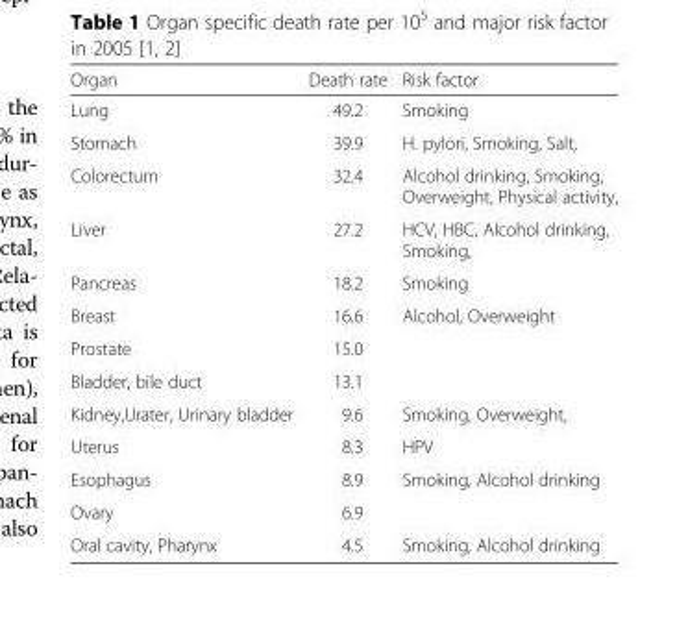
<table><thead><tr><td>Organ</td><td>Death rate</td><td>Risk factor</td></tr></thead><tbody><tr><td>Lung</td><td>49.2</td><td>Smoking</td></tr><tr><td>Stomach</td><td>39.9</td><td>H. pylori, Smoking, Salt,</td></tr><tr><td>Colorectum</td><td>32.4</td><td>Alcohol drinking, Smoking, Overweight, Physical activity,</td></tr><tr><td>Liver</td><td>27.2</td><td>HCV, HBC, Alcohol drinking, Smoking,</td></tr><tr><td>Pancreas</td><td>18.2</td><td>Smoking</td></tr><tr><td>Breast</td><td>16.6</td><td>Alcohol, Overweight</td></tr><tr><td>Prostate</td><td>15.0</td><td></td></tr><tr><td>Bladder, bile duct</td><td>13.1</td><td></td></tr><tr><td>Kidney,Urater, Urinary bladder</td><td>9.6</td><td>Smoking, Overweight,</td></tr><tr><td>Uterus</td><td>8.3</td><td>HPV</td></tr><tr><td>Esophagus</td><td>8.9</td><td>Smoking, Alcohol drinking</td></tr><tr><td>Ovary</td><td>6.9</td><td></td></tr><tr><td>Oral cavity, Pharynx</td><td>4.5</td><td>Smoking, Alcohol drinking</td></tr></tbody></table>